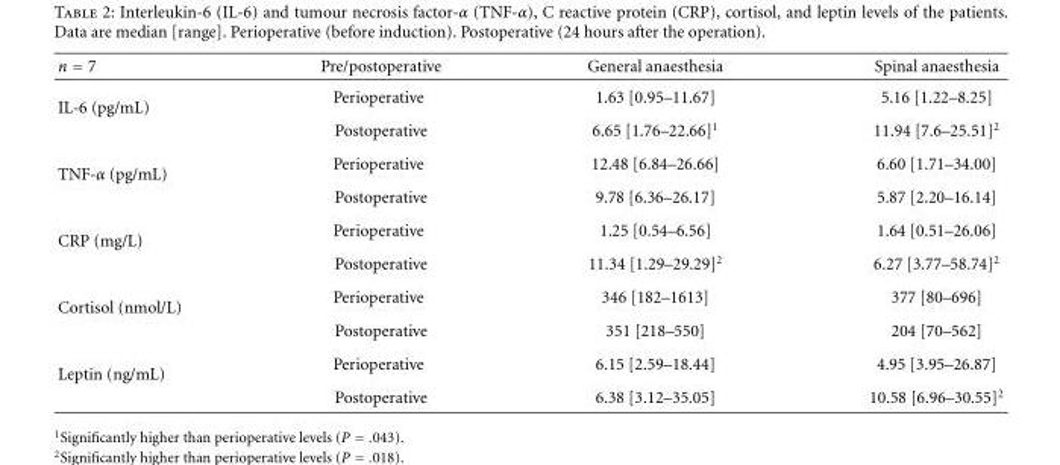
<table><tbody><tr><td>n = 7</td><td>Pre/postoperative</td><td>General anaesthesia</td><td>Spinal anaesthesia</td></tr><tr><td rowspan="2">IL-6 (pg/mL)</td><td>Perioperative</td><td>1.63 [0.95–11.67]</td><td>5.16 [1.22–8.25]</td></tr><tr><td>Postoperative</td><td>6.65 [1.76–22.66]<sup>1</sup></td><td>11.94 [7.6–25.51]<sup>2</sup></td></tr><tr><td rowspan="2">TNF-α (pg/mL)</td><td>Perioperative</td><td>12.48 [6.84–26.66]</td><td>6.60 [1.71–34.00]</td></tr><tr><td>Postoperative</td><td>9.78 [6.36–26.17]</td><td>5.87 [2.20–16.14]</td></tr><tr><td rowspan="2">CRP (mg/L)</td><td>Perioperative</td><td>1.25 [0.54–6.56]</td><td>1.64 [0.51–26.06]</td></tr><tr><td>Postoperative</td><td>11.34 [1.29–29.29]<sup>2</sup></td><td>6.27 [3.77–58.74]<sup>2</sup></td></tr><tr><td rowspan="2">Cortisol (nmol/L)</td><td>Perioperative</td><td>346 [182–1613]</td><td>377 [80–696]</td></tr><tr><td>Postoperative</td><td>351 [218–550]</td><td>204 [70–562]</td></tr><tr><td rowspan="2">Leptin (ng/mL)</td><td>Perioperative</td><td>6.15 [2.59–18.44]</td><td>4.95 [3.95–26.87]</td></tr><tr><td>Postoperative</td><td>6.38 [3.12–35.05]</td><td>10.58 [6.96–30.55]<sup>2</sup></td></tr></tbody></table>